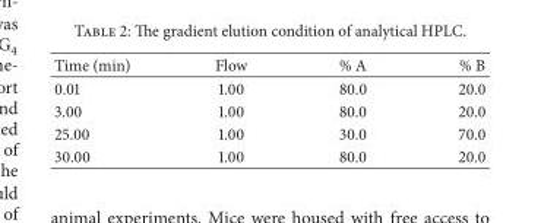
<table><thead><tr><td>Time (min)</td><td>Flow</td><td>% A</td><td>% B</td></tr></thead><tbody><tr><td>0.01</td><td>1.00</td><td>80.0</td><td>20.0</td></tr><tr><td>3.00</td><td>1.00</td><td>80.0</td><td>20.0</td></tr><tr><td>25.00</td><td>1.00</td><td>30.0</td><td>70.0</td></tr><tr><td>30.00</td><td>1.00</td><td>80.0</td><td>20.0</td></tr></tbody></table>